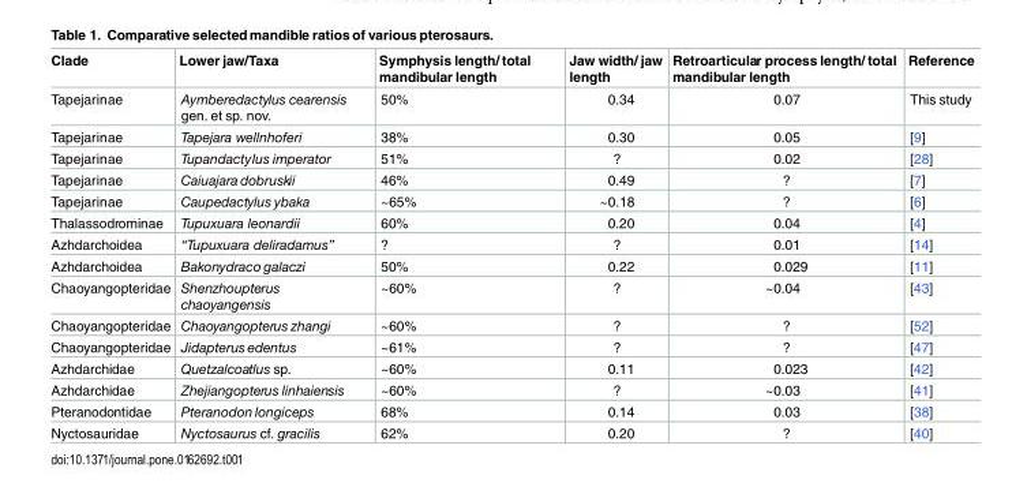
<table><thead><tr><td>Clade</td><td>Lower jaw/Taxa</td><td>Symphysis length/ total mandibular length</td><td>Jaw width/ jaw length</td><td>Retroarticular process length/ total mandibular length</td><td>Reference</td></tr></thead><tbody><tr><td>Tapejarinae</td><td>Aymberedactylus cearensis gen. et sp. nov.</td><td>50%</td><td>0.34</td><td>0.07</td><td>This study</td></tr><tr><td>Tapejarinae</td><td>Tapejara wellnhoferi</td><td>38%</td><td>0.30</td><td>0.05</td><td>[9]</td></tr><tr><td>Tapejarinae</td><td>Tupandactylus imperator</td><td>51%</td><td>?</td><td>0.02</td><td>[28]</td></tr><tr><td>Tapejarinae</td><td>Caiuajara dobruskii</td><td>46%</td><td>0.49</td><td>?</td><td>[7]</td></tr><tr><td>Tapejarinae</td><td>Caupedactylus ybaka</td><td>~65%</td><td>~0.18</td><td>?</td><td>[6]</td></tr><tr><td>Thalassodrominae</td><td>Tupuxuara leonardii</td><td>60%</td><td>0.20</td><td>0.04</td><td>[4]</td></tr><tr><td>Azhdarchoidea</td><td>“Tupuxuara deliradamus”</td><td>?</td><td>?</td><td>0.01</td><td>[14]</td></tr><tr><td>Azhdarchoidea</td><td>Bakonydraco galaczi</td><td>50%</td><td>0.22</td><td>0.029</td><td>[11]</td></tr><tr><td>Chaoyangopteridae</td><td>Shenzhoupterus chaoyangensis</td><td>~60%</td><td>?</td><td>~0.04</td><td>[43]</td></tr><tr><td>Chaoyangopteridae</td><td>Chaoyangopterus zhangi</td><td>~60%</td><td>?</td><td>?</td><td>[52]</td></tr><tr><td>Chaoyangopteridae</td><td>Jidapterus edentus</td><td>~61%</td><td>?</td><td>?</td><td>[47]</td></tr><tr><td>Azhdarchidae</td><td>Quetzalcoatlus sp.</td><td>~60%</td><td>0.11</td><td>0.023</td><td>[42]</td></tr><tr><td>Azhdarchidae</td><td>Zhejiangopterus linhaiensis</td><td>~60%</td><td>?</td><td>~0.03</td><td>[41]</td></tr><tr><td>Pteranodontidae</td><td>Pteranodon longiceps</td><td>68%</td><td>0.14</td><td>0.03</td><td>[38]</td></tr><tr><td>Nyctosauridae</td><td>Nyctosaurus cf. gracilis</td><td>62%</td><td>0.20</td><td>?</td><td>[40]</td></tr></tbody></table>